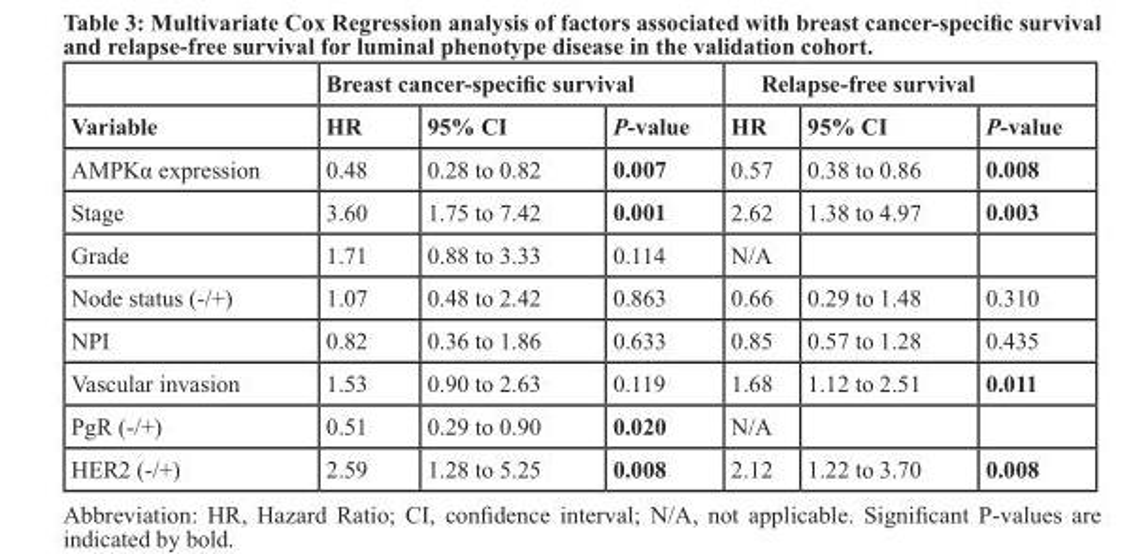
<table><thead><tr><td rowspan="2">Variable</td><td colspan="3">Breast cancer-specific survival</td><td colspan="3">Relapse-free survival</td></tr><tr><td>HR</td><td>95% CI</td><td>P-value</td><td>HR</td><td>95% CI</td><td>P-value</td></tr></thead><tbody><tr><td>AMPKα expression</td><td>0.48</td><td>0.28 to 0.82</td><td>0.007</td><td>0.57</td><td>0.38 to 0.86</td><td>0.008</td></tr><tr><td>Stage</td><td>3.60</td><td>1.75 to 7.42</td><td>0.001</td><td>2.62</td><td>1.38 to 4.97</td><td>0.003</td></tr><tr><td>Grade</td><td>1.71</td><td>0.88 to 3.33</td><td>0.114</td><td>N/A</td><td></td><td></td></tr><tr><td>Node status (-/+)</td><td>1.07</td><td>0.48 to 2.42</td><td>0.863</td><td>0.66</td><td>0.29 to 1.48</td><td>0.310</td></tr><tr><td>NPI</td><td>0.82</td><td>0.36 to 1.86</td><td>0.633</td><td>0.85</td><td>0.57 to 1.28</td><td>0.435</td></tr><tr><td>Vascular invasion</td><td>1.53</td><td>0.90 to 2.63</td><td>0.119</td><td>1.68</td><td>1.12 to 2.51</td><td>0.011</td></tr><tr><td>PgR (-/+)</td><td>0.51</td><td>0.29 to 0.90</td><td>0.020</td><td>N/A</td><td></td><td></td></tr><tr><td>HER2 (-/+)</td><td>2.59</td><td>1.28 to 5.25</td><td>0.008</td><td>2.12</td><td>1.22 to 3.70</td><td>0.008</td></tr></tbody></table>